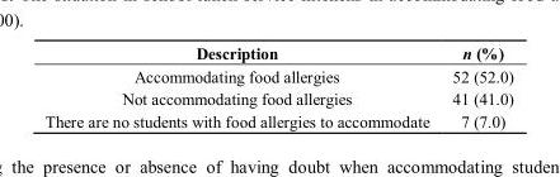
<table><thead><tr><td>Description</td><td>n (%)</td></tr></thead><tbody><tr><td>Accommodating food allergies</td><td>52 (52.0)</td></tr><tr><td>Not accommodating food allergies</td><td>41 (41.0)</td></tr><tr><td>There are no students with food allergies to accommodate</td><td>7 (7.0)</td></tr></tbody></table>